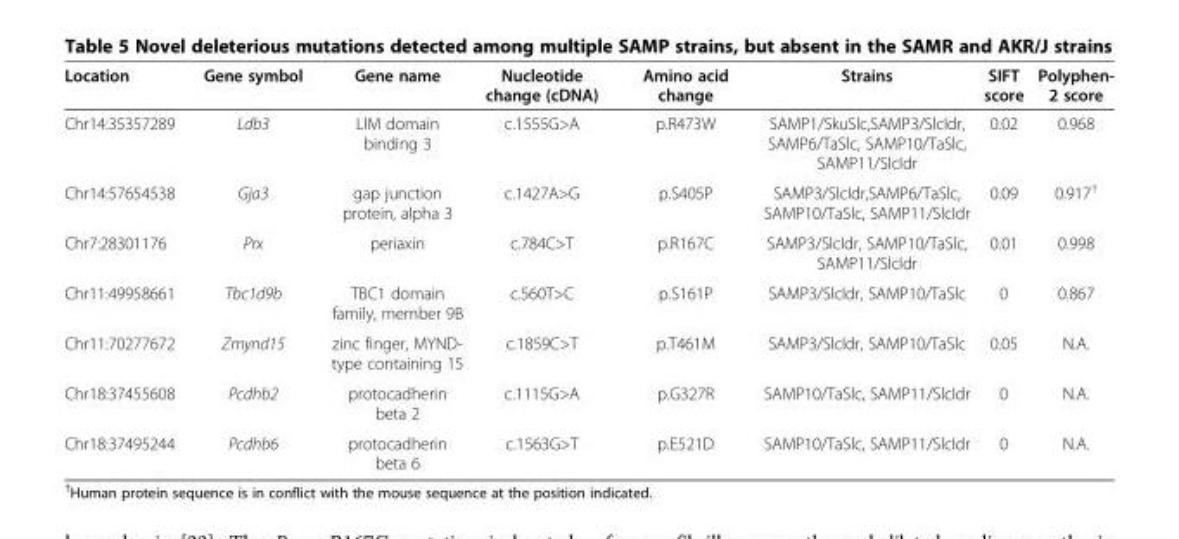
<table><thead><tr><td>Location</td><td>Gene symbol</td><td>Gene name</td><td>Nucleotide change (cDNA)</td><td>Amino acid change</td><td>Strains</td><td>SIFT score</td><td>Polyphen- 2 score</td></tr></thead><tbody><tr><td>Chr14:35357289</td><td>Ldb3</td><td>LIM domain binding 3</td><td>c.1555G&gt;A</td><td>p.R473W</td><td>SAMP1/SkuSlc,SAMP3/SlcIdr, SAMP6/TaSlc, SAMP10/TaSlc, SAMP11/SlcIdr</td><td>0.02</td><td>0.968</td></tr><tr><td>Chr14:57654538</td><td>Gja3</td><td>gap junction protein, alpha 3</td><td>c.1427A&gt;G</td><td>p.S405P</td><td>SAMP3/SlcIdr,SAMP6/TaSlc, SAMP10/TaSlc, SAMP11/SlcIdr</td><td>0.09</td><td>0.917<sup>†</sup></td></tr><tr><td>Chr7:28301176</td><td>Prx</td><td>periaxin</td><td>c.784C&gt;T</td><td>p.R167C</td><td>SAMP3/SlcIdr, SAMP10/TaSlc, SAMP11/SlcIdr</td><td>0.01</td><td>0.998</td></tr><tr><td>Chr11:49958661</td><td>Tbc1d9b</td><td>TBC1 domain family, member 9B</td><td>c.560T&gt;C</td><td>p.S161P</td><td>SAMP3/SlcIdr, SAMP10/TaSlc</td><td>0</td><td>0.867</td></tr><tr><td>Chr11:70277672</td><td>Zmynd15</td><td>zinc finger, MYND- type containing 15</td><td>c.1859C&gt;T</td><td>p.T461M</td><td>SAMP3/SlcIdr, SAMP10/TaSlc</td><td>0.05</td><td>N.A.</td></tr><tr><td>Chr18:37455608</td><td>Pcdhb2</td><td>protocadherin beta 2</td><td>c.1115G&gt;A</td><td>p.G327R</td><td>SAMP10/TaSlc, SAMP11/SlcIdr</td><td>0</td><td>N.A.</td></tr><tr><td>Chr18:37495244</td><td>Pcdhb6</td><td>protocadherin beta 6</td><td>c.1563G&gt;T</td><td>p.E521D</td><td>SAMP10/TaSlc, SAMP11/SlcIdr</td><td>0</td><td>N.A.</td></tr></tbody></table>